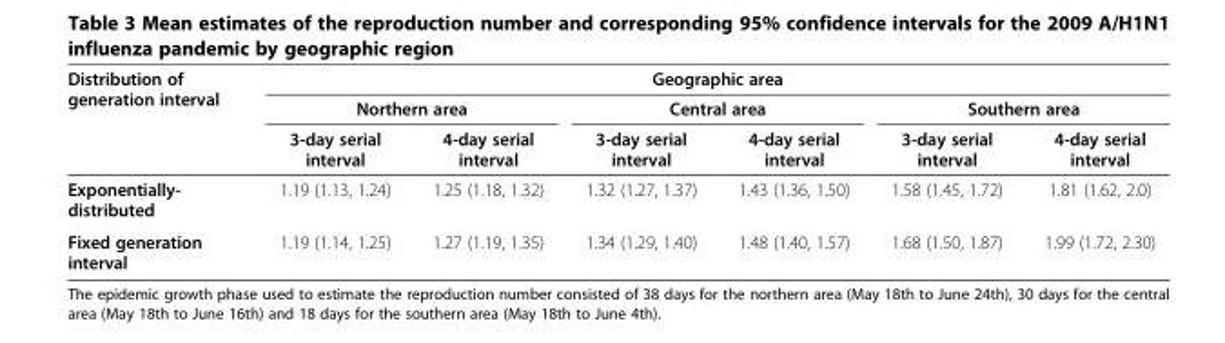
<table><thead><tr><td rowspan="3">Distribution of generation interval</td><td colspan="6">Geographic area</td></tr><tr><td colspan="2">Northern area</td><td colspan="2">Central area</td><td colspan="2">Southern area</td></tr><tr><td>3-day serial interval</td><td>4-day serial interval</td><td>3-day serial interval</td><td>4-day serial interval</td><td>3-day serial interval</td><td>4-day serial interval</td></tr></thead><tbody><tr><td>Exponentially- distributed</td><td>1.19 (1.13, 1.24)</td><td>1.25 (1.18, 1.32)</td><td>1.32 (1.27, 1.37)</td><td>1.43 (1.36, 1.50)</td><td>1.58 (1.45, 1.72)</td><td>1.81 (1.62, 2.0)</td></tr><tr><td>Fixed generation interval</td><td>1.19 (1.14, 1.25)</td><td>1.27 (1.19, 1.35)</td><td>1.34 (1.29, 1.40)</td><td>1.48 (1.40, 1.57)</td><td>1.68 (1.50, 1.87)</td><td>1.99 (1.72, 2.30)</td></tr></tbody></table>